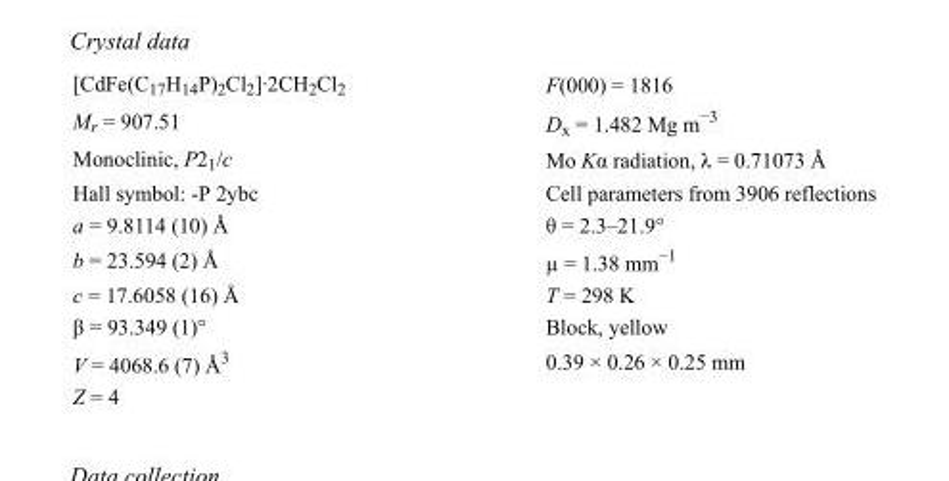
<table><tbody><tr><td>[CdFe(C<sub>17</sub>H<sub>14</sub>P)<sub>2</sub>Cl<sub>2</sub>]·2CH<sub>2</sub>Cl<sub>2</sub></td><td>F(000) = 1816</td></tr><tr><td>M<sub>r</sub> = 907.51</td><td>D<sub>x</sub> = 1.482 Mg m<sup>−3</sup></td></tr><tr><td>Monoclinic, P2<sub>1</sub>/c</td><td>Mo Kα radiation, λ = 0.71073 Å</td></tr><tr><td>Hall symbol: -P 2ybc</td><td>Cell parameters from 3906 reflections</td></tr><tr><td>a = 9.8114 (10) Å</td><td>θ = 2.3–21.9°</td></tr><tr><td>b = 23.594 (2) Å</td><td>µ = 1.38 mm<sup>−1</sup></td></tr><tr><td>c = 17.6058 (16) Å</td><td>T = 298 K</td></tr><tr><td>β = 93.349 (1)°</td><td>Block, yellow</td></tr><tr><td>V = 4068.6 (7) Å<sup>3</sup></td><td>0.39 × 0.26 × 0.25 mm</td></tr><tr><td>Z = 4</td><td></td></tr></tbody></table>